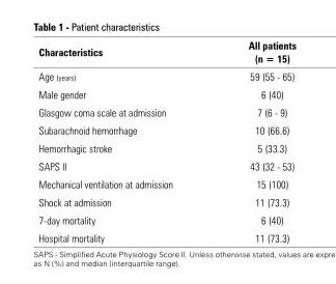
<table><thead><tr><td>Characteristics</td><td>All patients (n = 15)</td></tr></thead><tbody><tr><td>Age (years)</td><td>59 (55 - 65)</td></tr><tr><td>Male gender</td><td>6 (40)</td></tr><tr><td>Glasgow coma scale at admission</td><td>7 (6 - 9)</td></tr><tr><td>Subarachnoid hemorrhage</td><td>10 (66.6)</td></tr><tr><td>Hemorrhagic stroke</td><td>5 (33.3)</td></tr><tr><td>SAPS II</td><td>43 (32 - 53)</td></tr><tr><td>Mechanical ventilation at admission</td><td>15 (100)</td></tr><tr><td>Shock at admission</td><td>11 (73.3)</td></tr><tr><td>7-day mortality</td><td>6 (40)</td></tr><tr><td>Hospital mortality</td><td>11 (73.3)</td></tr></tbody></table>